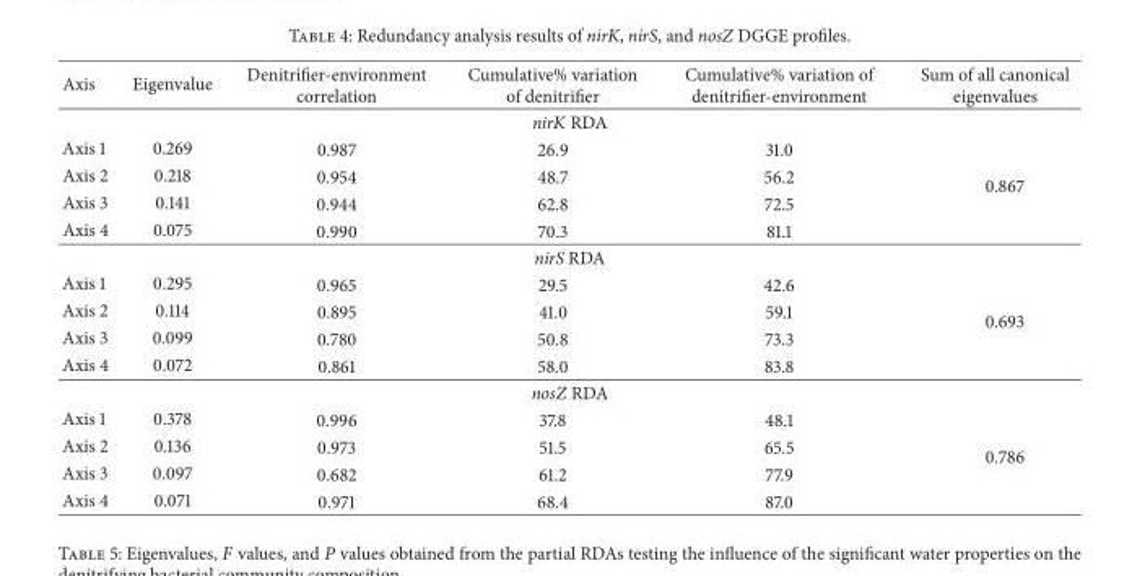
<table><thead><tr><td>Axis</td><td>Eigenvalue</td><td>Denitrifier-environment correlation</td><td>Cumulative% variation of denitrifier</td><td>Cumulative% variation of denitrifier-environment</td><td>Sum of all canonical eigenvalues</td></tr></thead><tbody><tr><td colspan="6">nirK RDA</td></tr><tr><td>Axis 1</td><td>0.269</td><td>0.987</td><td>26.9</td><td>31.0</td><td rowspan="4">0.867</td></tr><tr><td>Axis 2</td><td>0.218</td><td>0.954</td><td>48.7</td><td>56.2</td></tr><tr><td>Axis 3</td><td>0.141</td><td>0.944</td><td>62.8</td><td>72.5</td></tr><tr><td>Axis 4</td><td>0.075</td><td>0.990</td><td>70.3</td><td>81.1</td></tr><tr><td colspan="6">nirS RDA</td></tr><tr><td>Axis 1</td><td>0.295</td><td>0.965</td><td>29.5</td><td>42.6</td><td rowspan="4">0.693</td></tr><tr><td>Axis 2</td><td>0.114</td><td>0.895</td><td>41.0</td><td>59.1</td></tr><tr><td>Axis 3</td><td>0.099</td><td>0.780</td><td>50.8</td><td>73.3</td></tr><tr><td>Axis 4</td><td>0.072</td><td>0.861</td><td>58.0</td><td>83.8</td></tr><tr><td colspan="6">nosZ RDA</td></tr><tr><td>Axis 1</td><td>0.378</td><td>0.996</td><td>37.8</td><td>48.1</td><td rowspan="4">0.786</td></tr><tr><td>Axis 2</td><td>0.136</td><td>0.973</td><td>51.5</td><td>65.5</td></tr><tr><td>Axis 3</td><td>0.097</td><td>0.682</td><td>61.2</td><td>77.9</td></tr><tr><td>Axis 4</td><td>0.071</td><td>0.971</td><td>68.4</td><td>87.0</td></tr></tbody></table>